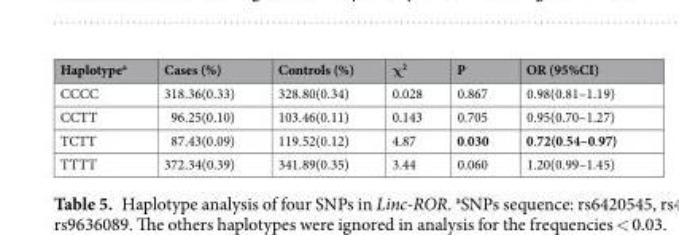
<table><thead><tr><td>Haplotype<sup>a</sup></td><td>Cases (%)</td><td>Controls (%)</td><td>χ<sup>2</sup></td><td>P</td><td>OR (95%CI)</td></tr></thead><tbody><tr><td>CCCC</td><td>318.36(0.33)</td><td>328.80(0.34)</td><td>0.028</td><td>0.867</td><td>0.98(0.81–1.19)</td></tr><tr><td>CCTT</td><td>96.25(0.10)</td><td>103.46(0.11)</td><td>0.143</td><td>0.705</td><td>0.95(0.70–1.27)</td></tr><tr><td>TCTT</td><td>87.43(0.09)</td><td>119.52(0.12)</td><td>4.87</td><td>0.030</td><td>0.72(0.54–0.97)</td></tr><tr><td>TTTT</td><td>372.34(0.39)</td><td>341.89(0.35)</td><td>3.44</td><td>0.060</td><td>1.20(0.99–1.45)</td></tr></tbody></table>